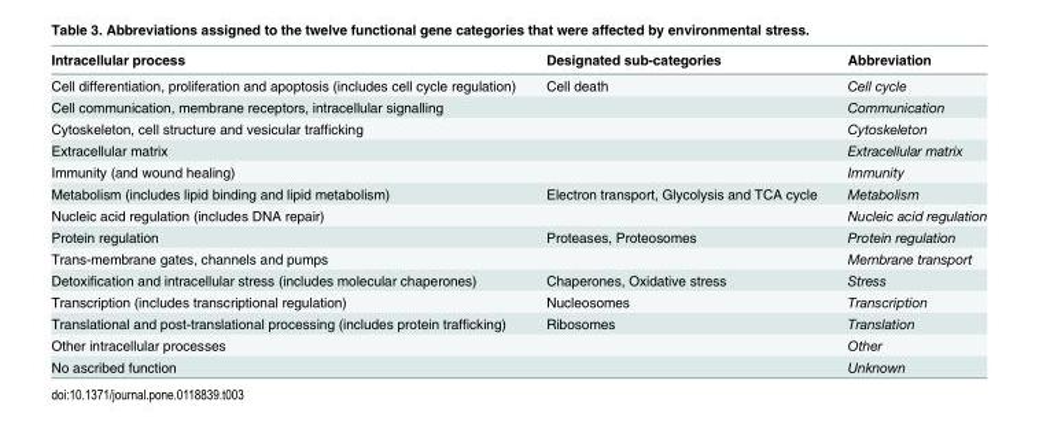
<table><thead><tr><td>Intracellular process</td><td>Designated sub-categories</td><td>Abbreviation</td></tr></thead><tbody><tr><td>Cell differentiation, proliferation and apoptosis (includes cell cycle regulation)</td><td>Cell death</td><td>Cell cycle</td></tr><tr><td>Cell communication, membrane receptors, intracellular signalling</td><td></td><td>Communication</td></tr><tr><td>Cytoskeleton, cell structure and vesicular trafficking</td><td></td><td>Cytoskeleton</td></tr><tr><td>Extracellular matrix</td><td></td><td>Extracellular matrix</td></tr><tr><td>Immunity (and wound healing)</td><td></td><td>Immunity</td></tr><tr><td>Metabolism (includes lipid binding and lipid metabolism)</td><td>Electron transport, Glycolysis and TCA cycle</td><td>Metabolism</td></tr><tr><td>Nucleic acid regulation (includes DNA repair)</td><td></td><td>Nucleic acid regulation</td></tr><tr><td>Protein regulation</td><td>Proteases, Proteosomes</td><td>Protein regulation</td></tr><tr><td>Trans-membrane gates, channels and pumps</td><td></td><td>Membrane transport</td></tr><tr><td>Detoxification and intracellular stress (includes molecular chaperones)</td><td>Chaperones, Oxidative stress</td><td>Stress</td></tr><tr><td>Transcription (includes transcriptional regulation)</td><td>Nucleosomes</td><td>Transcription</td></tr><tr><td>Translational and post-translational processing (includes protein trafficking)</td><td>Ribosomes</td><td>Translation</td></tr><tr><td>Other intracellular processes</td><td></td><td>Other</td></tr><tr><td>No ascribed function</td><td></td><td>Unknown</td></tr></tbody></table>